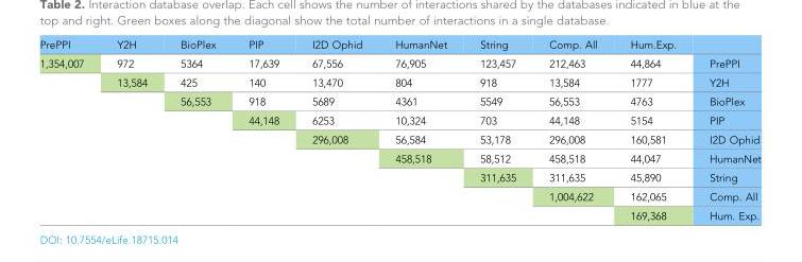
<table><tbody><tr><td>PrePPI</td><td>Y2H</td><td>BioPlex</td><td>PIP</td><td>I2D Ophid</td><td>HumanNet</td><td>String</td><td>Comp. All</td><td>Hum.Exp.</td><td></td></tr><tr><td rowspan="9">1,354,007</td><td>972</td><td>5364</td><td>17,639</td><td>67,556</td><td>76,905</td><td>123,457</td><td>212,463</td><td>44,864</td><td>PrePPI</td></tr><tr><td>13,584</td><td>425</td><td>140</td><td>13,470</td><td>804</td><td>918</td><td>13,584</td><td>1777</td><td>Y2H</td></tr><tr><td rowspan="7"></td><td>56,553</td><td>918</td><td>5689</td><td>4361</td><td>5549</td><td>56,553</td><td>4763</td><td>BioPlex</td></tr><tr><td rowspan="6"></td><td>44,148</td><td>6253</td><td>10,324</td><td>703</td><td>44,148</td><td>5154</td><td>PIP</td></tr><tr><td rowspan="5"></td><td>296,008</td><td>56,584</td><td>53,178</td><td>296,008</td><td>160,581</td><td>I2D Ophid</td></tr><tr><td rowspan="4"></td><td>458,518</td><td>58,512</td><td>458,518</td><td>44,047</td><td>HumanNet</td></tr><tr><td rowspan="3"></td><td>311,635</td><td>311,635</td><td>45,890</td><td>String</td></tr><tr><td rowspan="2"></td><td>1,004,622</td><td>162,065</td><td>Comp. All</td></tr><tr><td></td><td>169,368</td><td>Hum. Exp.</td></tr></tbody></table>